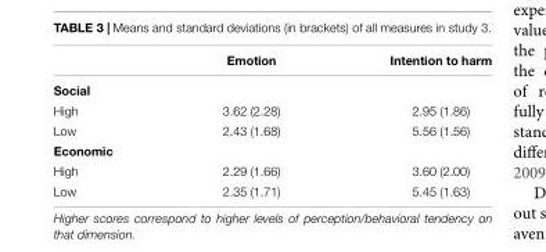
<table><thead><tr><td></td><td>Emotion</td><td>Intention to harm</td></tr></thead><tbody><tr><td colspan="3">Social</td></tr><tr><td>High</td><td>3.62 (2.28)</td><td>2.95 (1.86)</td></tr><tr><td>Low</td><td>2.43 (1.68)</td><td>5.56 (1.56)</td></tr><tr><td colspan="3">Economic</td></tr><tr><td>High</td><td>2.29 (1.66)</td><td>3.60 (2.00)</td></tr><tr><td>Low</td><td>2.35 (1.71)</td><td>5.45 (1.63)</td></tr></tbody></table>